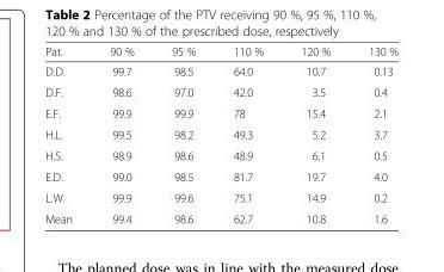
<table><thead><tr><td>Pat.</td><td>90 %</td><td>95 %</td><td>110 %</td><td>120 %</td><td>130 %</td></tr></thead><tbody><tr><td>D.D.</td><td>99.7</td><td>98.5</td><td>64.0</td><td>10.7</td><td>0.13</td></tr><tr><td>D.F.</td><td>98.6</td><td>97.0</td><td>42.0</td><td>3.5</td><td>0.4</td></tr><tr><td>E.F.</td><td>99.9</td><td>99.9</td><td>78</td><td>15.4</td><td>2.1</td></tr><tr><td>H.L.</td><td>99.5</td><td>98.2</td><td>49.3</td><td>5.2</td><td>3.7</td></tr><tr><td>H.S.</td><td>98.9</td><td>98.6</td><td>48.9</td><td>6.1</td><td>0.5</td></tr><tr><td>E.D.</td><td>99.0</td><td>98.5</td><td>81.7</td><td>19.7</td><td>4.0</td></tr><tr><td>L.W.</td><td>99.9</td><td>99.6</td><td>75.1</td><td>14.9</td><td>0.2</td></tr><tr><td>Mean</td><td>99.4</td><td>98.6</td><td>62.7</td><td>10.8</td><td>1.6</td></tr></tbody></table>